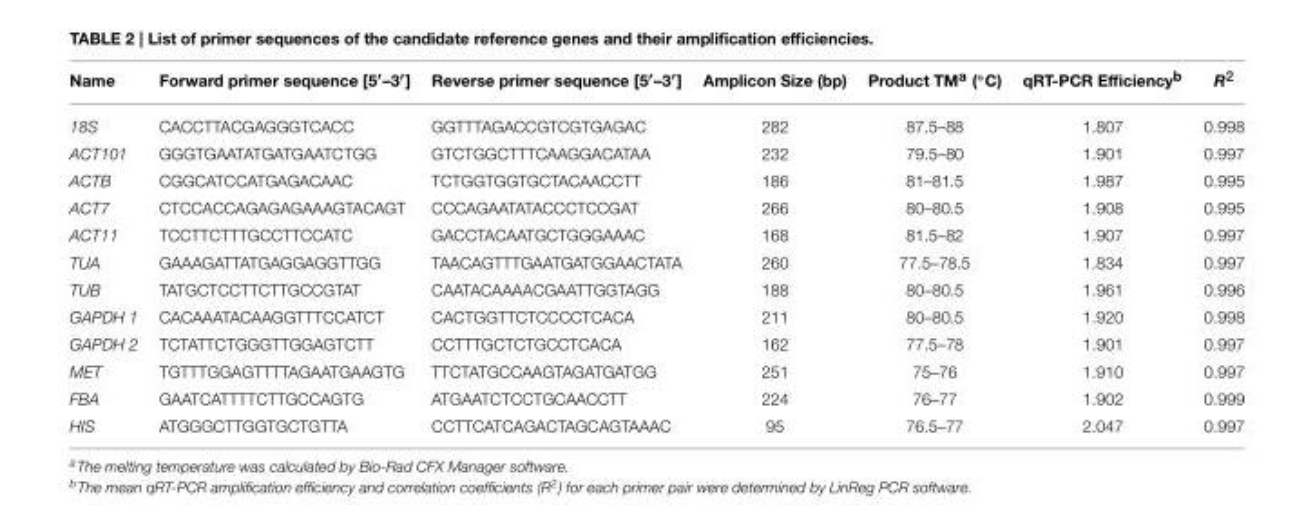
<table><thead><tr><td>Name</td><td>Forward primer sequence [5′–3′]</td><td>Reverse primer sequence [5′–3′]</td><td>Amplicon Size (bp)</td><td>Product TMa (◦C)</td><td>qRT-PCR Efficiency<sup>b</sup></td><td>R<sup>2</sup></td></tr></thead><tbody><tr><td>18S</td><td>CACCTTACGAGGGTCACC</td><td>GGTTTAGACCGTCGTGAGAC</td><td>282</td><td>87.5–88</td><td>1.807</td><td>0.998</td></tr><tr><td>ACT101</td><td>GGGTGAATATGATGAATCTGG</td><td>GTCTGGCTTTCAAGGACATAA</td><td>232</td><td>79.5–80</td><td>1.901</td><td>0.997</td></tr><tr><td>ACTB</td><td>CGGCATCCATGAGACAAC</td><td>TCTGGTGGTGCTACAACCTT</td><td>186</td><td>81–81.5</td><td>1.987</td><td>0.995</td></tr><tr><td>ACT7</td><td>CTCCACCAGAGAGAAAGTACAGT</td><td>CCCAGAATATACCCTCCGAT</td><td>266</td><td>80–80.5</td><td>1.908</td><td>0.995</td></tr><tr><td>ACT11</td><td>TCCTTCTTTGCCTTCCATC</td><td>GACCTACAATGCTGGGAAAC</td><td>168</td><td>81.5–82</td><td>1.907</td><td>0.997</td></tr><tr><td>TUA</td><td>GAAAGATTATGAGGAGGTTGG</td><td>TAACAGTTTGAATGATGGAACTATA</td><td>260</td><td>77.5–78.5</td><td>1.834</td><td>0.997</td></tr><tr><td>TUB</td><td>TATGCTCCTTCTTGCCGTAT</td><td>CAATACAAAACGAATTGGTAGG</td><td>188</td><td>80–80.5</td><td>1.961</td><td>0.996</td></tr><tr><td>GAPDH 1</td><td>CACAAATACAAGGTTTCCATCT</td><td>CACTGGTTCTCCCCTCACA</td><td>211</td><td>80–80.5</td><td>1.920</td><td>0.998</td></tr><tr><td>GAPDH 2</td><td>TCTATTCTGGGTTGGAGTCTT</td><td>CCTTTGCTCTGCCTCACA</td><td>162</td><td>77.5–78</td><td>1.901</td><td>0.997</td></tr><tr><td>MET</td><td>TGTTTGGAGTTTTAGAATGAAGTG</td><td>TTCTATGCCAAGTAGATGATGG</td><td>251</td><td>75–76</td><td>1.910</td><td>0.997</td></tr><tr><td>FBA</td><td>GAATCATTTTCTTGCCAGTG</td><td>ATGAATCTCCTGCAACCTT</td><td>224</td><td>76–77</td><td>1.902</td><td>0.999</td></tr><tr><td>HIS</td><td>ATGGGCTTGGTGCTGTTA</td><td>CCTTCATCAGACTAGCAGTAAAC</td><td>95</td><td>76.5–77</td><td>2.047</td><td>0.997</td></tr></tbody></table>